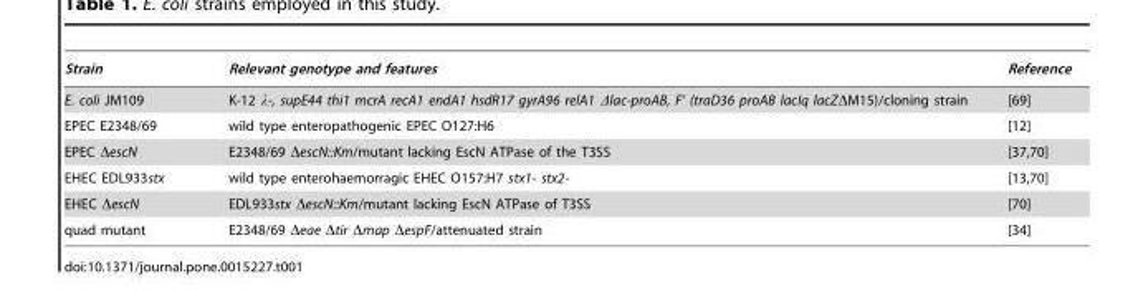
<table><thead><tr><td>Strain</td><td>Relevant genotype and features</td><td>Reference</td></tr></thead><tbody><tr><td>E. coli JM109</td><td>K-12 λ-, supE44 thi1 mcrA recA1 endA1 hsdR17 gyrA96 relA1 Δlac-proAB, F’ (traD36 proAB lacIq lacZΔM15)/cloning strain</td><td>[69]</td></tr><tr><td>EPEC E2348/69</td><td>wild type enteropathogenic EPEC O127:H6</td><td>[12]</td></tr><tr><td>EPEC ΔescN</td><td>E2348/69 ΔescN::Km/mutant lacking EscN ATPase of the T3SS</td><td>[37,70]</td></tr><tr><td>EHEC EDL933stx</td><td>wild type enterohaemorragic EHEC O157:H7 stx1- stx2-</td><td>[13,70]</td></tr><tr><td>EHEC ΔescN</td><td>EDL933stx ΔescN::Km/mutant lacking EscN ATPase of T3SS</td><td>[70]</td></tr><tr><td>quad mutant</td><td>E2348/69 Δeae Δtir Δmap ΔespF/attenuated strain</td><td>[34]</td></tr></tbody></table>